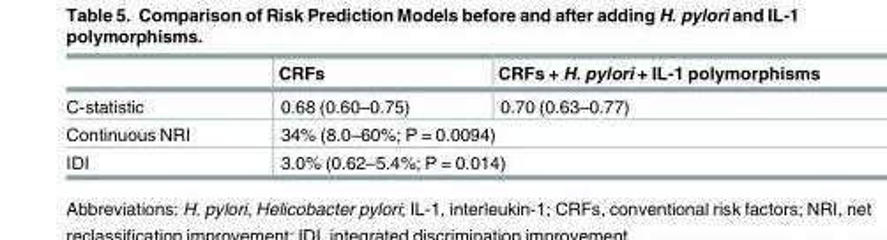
<table><thead><tr><td></td><td>CRFs</td><td>CRFs + H. pylori + IL-1 polymorphisms</td></tr></thead><tbody><tr><td>C-statistic</td><td>0.68 (0.60–0.75)</td><td>0.70 (0.63–0.77)</td></tr><tr><td>Continuous NRI</td><td colspan="2">34% (8.0–60%; P = 0.0094)</td></tr><tr><td>IDI</td><td colspan="2">3.0% (0.62–5.4%; P = 0.014)</td></tr></tbody></table>